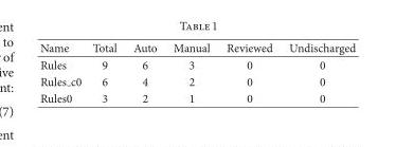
<table><thead><tr><td>Name</td><td>Total</td><td>Auto</td><td>Manual</td><td>Reviewed</td><td>Undischarged</td></tr></thead><tbody><tr><td>Rules</td><td>9</td><td>6</td><td>3</td><td>0</td><td>0</td></tr><tr><td>Rules c0</td><td>6</td><td>4</td><td>2</td><td>0</td><td>0</td></tr><tr><td>Rules0</td><td>3</td><td>2</td><td>1</td><td>0</td><td>0</td></tr></tbody></table>